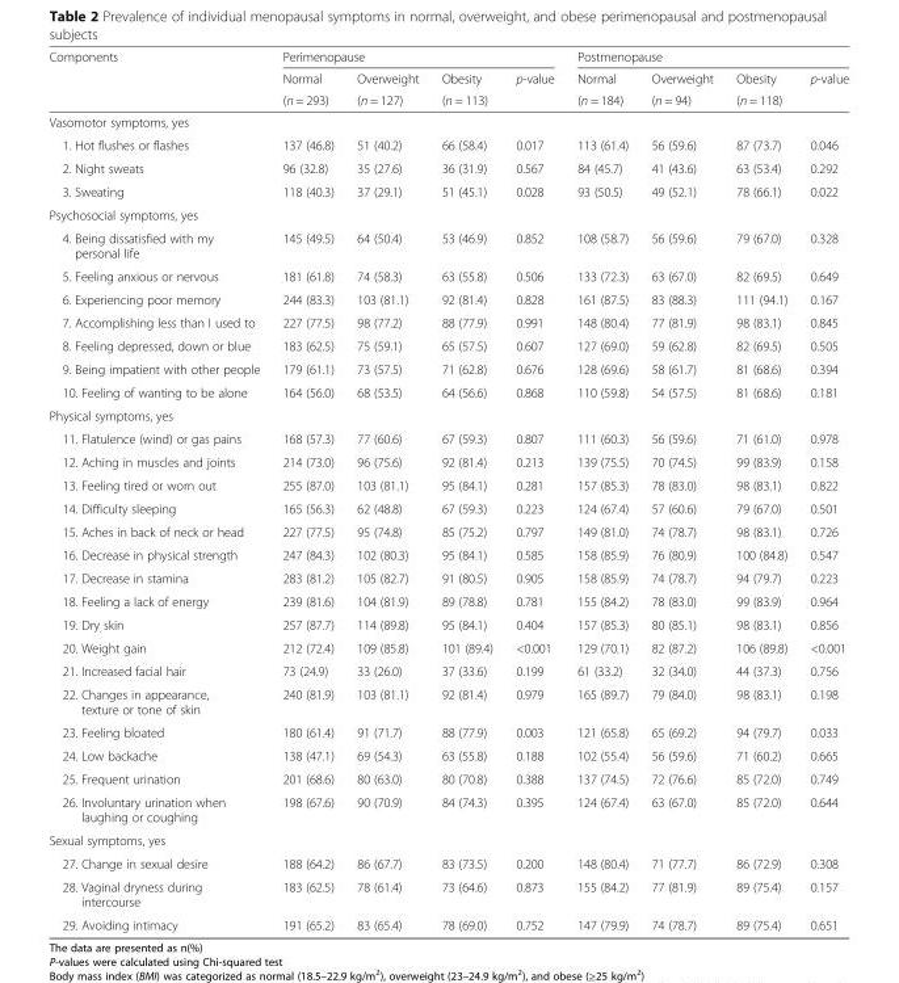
<table><thead><tr><td rowspan="3">Components</td><td colspan="4">Perimenopause</td><td colspan="4">Postmenopause</td></tr><tr><td rowspan="2">Normal (n = 293)</td><td rowspan="2">Overweight (n = 127)</td><td rowspan="2">Obesity (n = 113)</td><td rowspan="2">p-value</td><td rowspan="2">Normal (n = 184)</td><td rowspan="2">Overweight (n = 94)</td><td rowspan="2">Obesity (n = 118)</td><td rowspan="2">p-value</td></tr><tr></tr></thead><tbody><tr><td colspan="9">Vasomotor symptoms, yes</td></tr><tr><td>1. Hot flushes or flashes</td><td>137 (46.8)</td><td>51 (40.2)</td><td>66 (58.4)</td><td>0.017</td><td>113 (61.4)</td><td>56 (59.6)</td><td>87 (73.7)</td><td>0.046</td></tr><tr><td>2. Night sweats</td><td>96 (32.8)</td><td>35 (27.6)</td><td>36 (31.9)</td><td>0.567</td><td>84 (45.7)</td><td>41 (43.6)</td><td>63 (53.4)</td><td>0.292</td></tr><tr><td>3. Sweating</td><td>118 (40.3)</td><td>37 (29.1)</td><td>51 (45.1)</td><td>0.028</td><td>93 (50.5)</td><td>49 (52.1)</td><td>78 (66.1)</td><td>0.022</td></tr><tr><td colspan="9">Psychosocial symptoms, yes</td></tr><tr><td>4. Being dissatisfied with my personal life</td><td>145 (49.5)</td><td>64 (50.4)</td><td>53 (46.9)</td><td>0.852</td><td>108 (58.7)</td><td>56 (59.6)</td><td>79 (67.0)</td><td>0.328</td></tr><tr><td>5. Feeling anxious or nervous</td><td>181 (61.8)</td><td>74 (58.3)</td><td>63 (55.8)</td><td>0.506</td><td>133 (72.3)</td><td>63 (67.0)</td><td>82 (69.5)</td><td>0.649</td></tr><tr><td>6. Experiencing poor memory</td><td>244 (83.3)</td><td>103 (81.1)</td><td>92 (81.4)</td><td>0.828</td><td>161 (87.5)</td><td>83 (88.3)</td><td>111 (94.1)</td><td>0.167</td></tr><tr><td>7. Accomplishing less than I used to</td><td>227 (77.5)</td><td>98 (77.2)</td><td>88 (77.9)</td><td>0.991</td><td>148 (80.4)</td><td>77 (81.9)</td><td>98 (83.1)</td><td>0.845</td></tr><tr><td>8. Feeling depressed, down or blue</td><td>183 (62.5)</td><td>75 (59.1)</td><td>65 (57.5)</td><td>0.607</td><td>127 (69.0)</td><td>59 (62.8)</td><td>82 (69.5)</td><td>0.505</td></tr><tr><td>9. Being impatient with other people</td><td>179 (61.1)</td><td>73 (57.5)</td><td>71 (62.8)</td><td>0.676</td><td>128 (69.6)</td><td>58 (61.7)</td><td>81 (68.6)</td><td>0.394</td></tr><tr><td>10. Feeling of wanting to be alone</td><td>164 (56.0)</td><td>68 (53.5)</td><td>64 (56.6)</td><td>0.868</td><td>110 (59.8)</td><td>54 (57.5)</td><td>81 (68.6)</td><td>0.181</td></tr><tr><td colspan="9">Physical symptoms, yes</td></tr><tr><td>11. Flatulence (wind) or gas pains</td><td>168 (57.3)</td><td>77 (60.6)</td><td>67 (59.3)</td><td>0.807</td><td>111 (60.3)</td><td>56 (59.6)</td><td>71 (61.0)</td><td>0.978</td></tr><tr><td>12. Aching in muscles and joints</td><td>214 (73.0)</td><td>96 (75.6)</td><td>92 (81.4)</td><td>0.213</td><td>139 (75.5)</td><td>70 (74.5)</td><td>99 (83.9)</td><td>0.158</td></tr><tr><td>13. Feeling tired or worn out</td><td>255 (87.0)</td><td>103 (81.1)</td><td>95 (84.1)</td><td>0.281</td><td>157 (85.3)</td><td>78 (83.0)</td><td>98 (83.1)</td><td>0.822</td></tr><tr><td>14. Difficulty sleeping</td><td>165 (56.3)</td><td>62 (48.8)</td><td>67 (59.3)</td><td>0.223</td><td>124 (67.4)</td><td>57 (60.6)</td><td>79 (67.0)</td><td>0.501</td></tr><tr><td>15. Aches in back of neck or head</td><td>227 (77.5)</td><td>95 (74.8)</td><td>85 (75.2)</td><td>0.797</td><td>149 (81.0)</td><td>74 (78.7)</td><td>98 (83.1)</td><td>0.726</td></tr><tr><td>16. Decrease in physical strength</td><td>247 (84.3)</td><td>102 (80.3)</td><td>95 (84.1)</td><td>0.585</td><td>158 (85.9)</td><td>76 (80.9)</td><td>100 (84.8)</td><td>0.547</td></tr><tr><td>17. Decrease in stamina</td><td>283 (81.2)</td><td>105 (82.7)</td><td>91 (80.5)</td><td>0.905</td><td>158 (85.9)</td><td>74 (78.7)</td><td>94 (79.7)</td><td>0.223</td></tr><tr><td>18. Feeling a lack of energy</td><td>239 (81.6)</td><td>104 (81.9)</td><td>89 (78.8)</td><td>0.781</td><td>155 (84.2)</td><td>78 (83.0)</td><td>99 (83.9)</td><td>0.964</td></tr><tr><td>19. Dry skin</td><td>257 (87.7)</td><td>114 (89.8)</td><td>95 (84.1)</td><td>0.404</td><td>157 (85.3)</td><td>80 (85.1)</td><td>98 (83.1)</td><td>0.856</td></tr><tr><td>20. Weight gain</td><td>212 (72.4)</td><td>109 (85.8)</td><td>101 (89.4)</td><td>&lt;0.001</td><td>129 (70.1)</td><td>82 (87.2)</td><td>106 (89.8)</td><td>&lt;0.001</td></tr><tr><td>21. Increased facial hair</td><td>73 (24.9)</td><td>33 (26.0)</td><td>37 (33.6)</td><td>0.199</td><td>61 (33.2)</td><td>32 (34.0)</td><td>44 (37.3)</td><td>0.756</td></tr><tr><td>22. Changes in appearance, texture or tone of skin</td><td>240 (81.9)</td><td>103 (81.1)</td><td>92 (81.4)</td><td>0.979</td><td>165 (89.7)</td><td>79 (84.0)</td><td>98 (83.1)</td><td>0.198</td></tr><tr><td>23. Feeling bloated</td><td>180 (61.4)</td><td>91 (71.7)</td><td>88 (77.9)</td><td>0.003</td><td>121 (65.8)</td><td>65 (69.2)</td><td>94 (79.7)</td><td>0.033</td></tr><tr><td>24. Low backache</td><td>138 (47.1)</td><td>69 (54.3)</td><td>63 (55.8)</td><td>0.188</td><td>102 (55.4)</td><td>56 (59.6)</td><td>71 (60.2)</td><td>0.665</td></tr><tr><td>25. Frequent urination</td><td>201 (68.6)</td><td>80 (63.0)</td><td>80 (70.8)</td><td>0.388</td><td>137 (74.5)</td><td>72 (76.6)</td><td>85 (72.0)</td><td>0.749</td></tr><tr><td>26. Involuntary urination when laughing or coughing</td><td>198 (67.6)</td><td>90 (70.9)</td><td>84 (74.3)</td><td>0.395</td><td>124 (67.4)</td><td>63 (67.0)</td><td>85 (72.0)</td><td>0.644</td></tr><tr><td colspan="9">Sexual symptoms, yes</td></tr><tr><td>27. Change in sexual desire</td><td>188 (64.2)</td><td>86 (67.7)</td><td>83 (73.5)</td><td>0.200</td><td>148 (80.4)</td><td>71 (77.7)</td><td>86 (72.9)</td><td>0.308</td></tr><tr><td>28. Vaginal dryness during intercourse</td><td>183 (62.5)</td><td>78 (61.4)</td><td>73 (64.6)</td><td>0.873</td><td>155 (84.2)</td><td>77 (81.9)</td><td>89 (75.4)</td><td>0.157</td></tr><tr><td>29. Avoiding intimacy</td><td>191 (65.2)</td><td>83 (65.4)</td><td>78 (69.0)</td><td>0.752</td><td>147 (79.9)</td><td>74 (78.7)</td><td>89 (75.4)</td><td>0.651</td></tr></tbody></table>